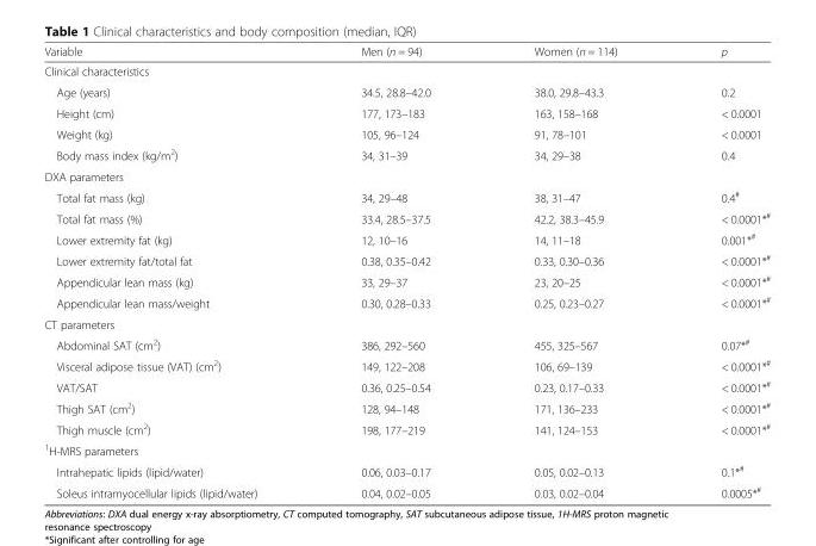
<table><thead><tr><td>Variable</td><td>Men (n = 94)</td><td>Women (n = 114)</td><td>p</td></tr></thead><tbody><tr><td colspan="4">Clinical characteristics</td></tr><tr><td>Age (years)</td><td>34.5, 28.8–42.0</td><td>38.0, 29.8–43.3</td><td>0.2</td></tr><tr><td>Height (cm)</td><td>177, 173–183</td><td>163, 158–168</td><td>&lt; 0.0001</td></tr><tr><td>Weight (kg)</td><td>105, 96–124</td><td>91, 78–101</td><td>&lt; 0.0001</td></tr><tr><td>Body mass index (kg/m<sup>2</sup>)</td><td>34, 31–39</td><td>34, 29–38</td><td>0.4</td></tr><tr><td colspan="4">DXA parameters</td></tr><tr><td>Total fat mass (kg)</td><td>34, 29–48</td><td>38, 31–47</td><td>0.4<sup>#</sup></td></tr><tr><td>Total fat mass (%)</td><td>33.4, 28.5–37.5</td><td>42.2, 38.3–45.9</td><td>&lt; 0.0001*<sup>#</sup></td></tr><tr><td>Lower extremity fat (kg)</td><td>12, 10–16</td><td>14, 11–18</td><td>0.001*<sup>#</sup></td></tr><tr><td>Lower extremity fat/total fat</td><td>0.38, 0.35–0.42</td><td>0.33, 0.30–0.36</td><td>&lt; 0.0001*<sup>#</sup></td></tr><tr><td>Appendicular lean mass (kg)</td><td>33, 29–37</td><td>23, 20–25</td><td>&lt; 0.0001*<sup>#</sup></td></tr><tr><td>Appendicular lean mass/weight</td><td>0.30, 0.28–0.33</td><td>0.25, 0.23–0.27</td><td>&lt; 0.0001*<sup>#</sup></td></tr><tr><td colspan="4">CT parameters</td></tr><tr><td>Abdominal SAT (cm<sup>2</sup>)</td><td>386, 292–560</td><td>455, 325–567</td><td>0.07*<sup>#</sup></td></tr><tr><td>Visceral adipose tissue (VAT) (cm<sup>2</sup>)</td><td>149, 122–208</td><td>106, 69–139</td><td>&lt; 0.0001*<sup>#</sup></td></tr><tr><td>VAT/SAT</td><td>0.36, 0.25–0.54</td><td>0.23, 0.17–0.33</td><td>&lt; 0.0001*<sup>#</sup></td></tr><tr><td>Thigh SAT (cm<sup>2</sup>)</td><td>128, 94–148</td><td>171, 136–233</td><td>&lt; 0.0001*<sup>#</sup></td></tr><tr><td>Thigh muscle (cm<sup>2</sup>)</td><td>198, 177–219</td><td>141, 124–153</td><td>&lt; 0.0001*<sup>#</sup></td></tr><tr><td colspan="4"><sup>1</sup>H-MRS parameters</td></tr><tr><td>Intrahepatic lipids (lipid/water)</td><td>0.06, 0.03–0.17</td><td>0.05, 0.02–0.13</td><td>0.1*<sup>#</sup></td></tr><tr><td>Soleus intramyocellular lipids (lipid/water)</td><td>0.04, 0.02–0.05</td><td>0.03, 0.02–0.04</td><td>0.0005*<sup>#</sup></td></tr></tbody></table>